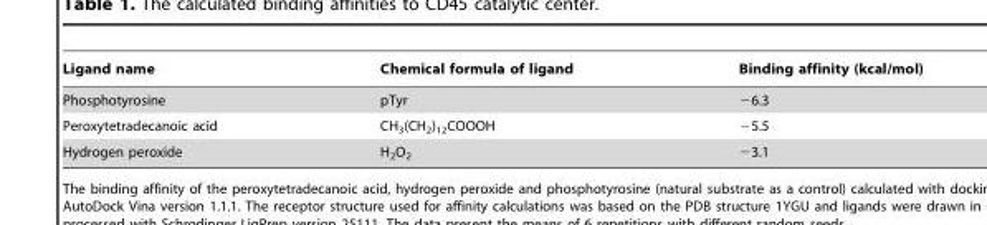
<table><thead><tr><td>Ligand name</td><td>Chemical formula of ligand</td><td>Binding affinity (kcal/mol)</td></tr></thead><tbody><tr><td>Phosphotyrosine</td><td>pTyr</td><td>−6.3</td></tr><tr><td>Peroxytetradecanoic acid</td><td>CH<sub>3</sub>(CH<sub>2</sub>)<sub>12</sub>COOOH</td><td>−5.5</td></tr><tr><td>Hydrogen peroxide</td><td>H<sub>2</sub>O<sub>2</sub></td><td>−3.1</td></tr></tbody></table>